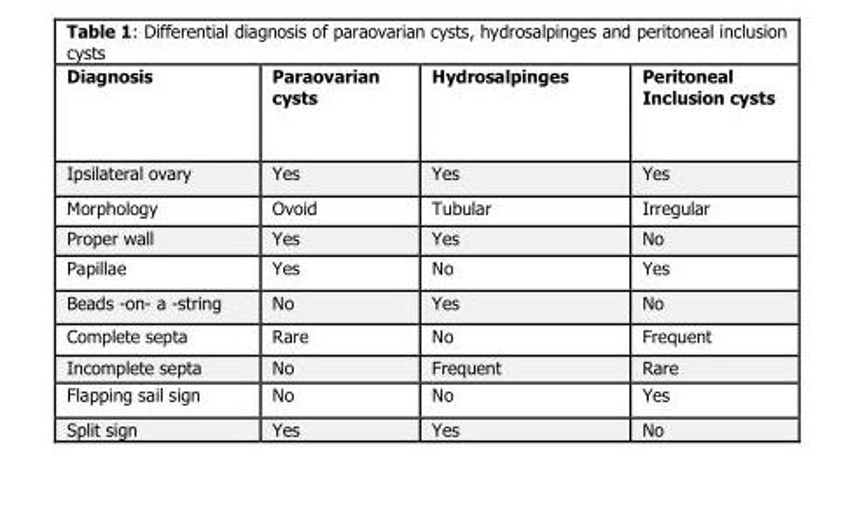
<table><thead><tr><td>Diagnosis</td><td>Paraovarian cysts</td><td>Hydrosalpinges</td><td>Peritoneal Inclusion cysts</td></tr></thead><tbody><tr><td>Ipsilateral ovary</td><td>Yes</td><td>Yes</td><td>Yes</td></tr><tr><td>Morphology</td><td>Ovoid</td><td>Tubular</td><td>Irregular</td></tr><tr><td>Proper wall</td><td>Yes</td><td>Yes</td><td>No</td></tr><tr><td>Papillae</td><td>Yes</td><td>No</td><td>Yes</td></tr><tr><td>Beads -on- a -string</td><td>No</td><td>Yes</td><td>No</td></tr><tr><td>Complete septa</td><td>Rare</td><td>No</td><td>Frequent</td></tr><tr><td>Incomplete septa</td><td>No</td><td>Frequent</td><td>Rare</td></tr><tr><td>Flapping sail sign</td><td>No</td><td>No</td><td>Yes</td></tr><tr><td>Split sign</td><td>Yes</td><td>Yes</td><td>No</td></tr></tbody></table>